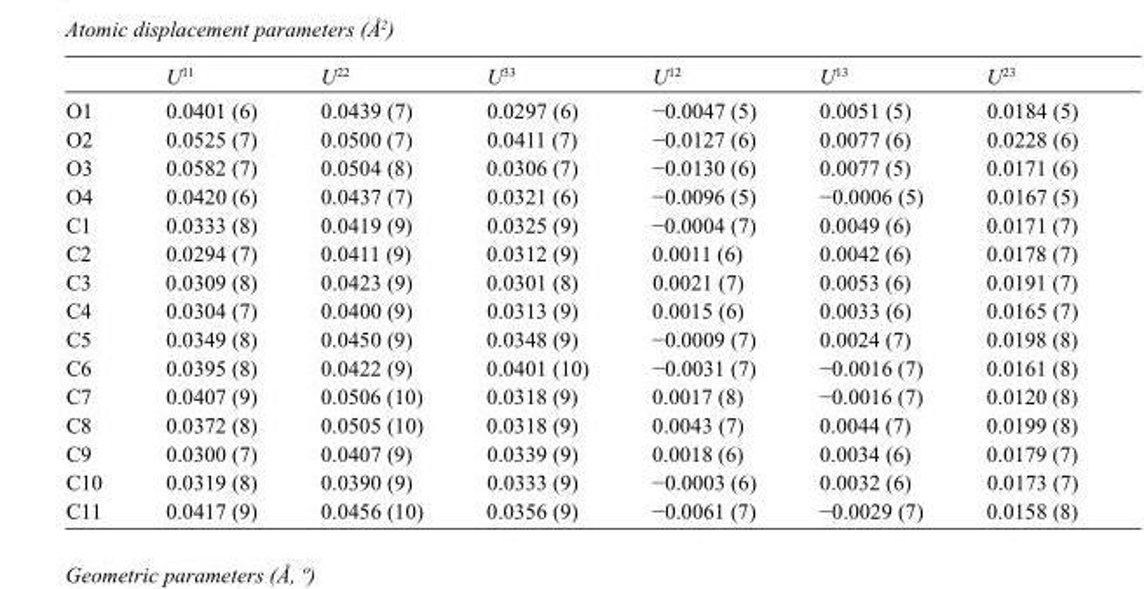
<table><thead><tr><td></td><td>U<sup>11</sup></td><td>U<sup>22</sup></td><td>U<sup>33</sup></td><td>U<sup>12</sup></td><td>U<sup>13</sup></td><td>U<sup>23</sup></td></tr></thead><tbody><tr><td>O1</td><td>0.0401 (6)</td><td>0.0439 (7)</td><td>0.0297 (6)</td><td>−0.0047 (5)</td><td>0.0051 (5)</td><td>0.0184 (5)</td></tr><tr><td>O2</td><td>0.0525 (7)</td><td>0.0500 (7)</td><td>0.0411 (7)</td><td>−0.0127 (6)</td><td>0.0077 (6)</td><td>0.0228 (6)</td></tr><tr><td>O3</td><td>0.0582 (7)</td><td>0.0504 (8)</td><td>0.0306 (7)</td><td>−0.0130 (6)</td><td>0.0077 (5)</td><td>0.0171 (6)</td></tr><tr><td>O4</td><td>0.0420 (6)</td><td>0.0437 (7)</td><td>0.0321 (6)</td><td>−0.0096 (5)</td><td>−0.0006 (5)</td><td>0.0167 (5)</td></tr><tr><td>C1</td><td>0.0333 (8)</td><td>0.0419 (9)</td><td>0.0325 (9)</td><td>−0.0004 (7)</td><td>0.0049 (6)</td><td>0.0171 (7)</td></tr><tr><td>C2</td><td>0.0294 (7)</td><td>0.0411 (9)</td><td>0.0312 (9)</td><td>0.0011 (6)</td><td>0.0042 (6)</td><td>0.0178 (7)</td></tr><tr><td>C3</td><td>0.0309 (8)</td><td>0.0423 (9)</td><td>0.0301 (8)</td><td>0.0021 (7)</td><td>0.0053 (6)</td><td>0.0191 (7)</td></tr><tr><td>C4</td><td>0.0304 (7)</td><td>0.0400 (9)</td><td>0.0313 (9)</td><td>0.0015 (6)</td><td>0.0033 (6)</td><td>0.0165 (7)</td></tr><tr><td>C5</td><td>0.0349 (8)</td><td>0.0450 (9)</td><td>0.0348 (9)</td><td>−0.0009 (7)</td><td>0.0024 (7)</td><td>0.0198 (8)</td></tr><tr><td>C6</td><td>0.0395 (8)</td><td>0.0422 (9)</td><td>0.0401 (10)</td><td>−0.0031 (7)</td><td>−0.0016 (7)</td><td>0.0161 (8)</td></tr><tr><td>C7</td><td>0.0407 (9)</td><td>0.0506 (10)</td><td>0.0318 (9)</td><td>0.0017 (8)</td><td>−0.0016 (7)</td><td>0.0120 (8)</td></tr><tr><td>C8</td><td>0.0372 (8)</td><td>0.0505 (10)</td><td>0.0318 (9)</td><td>0.0043 (7)</td><td>0.0044 (7)</td><td>0.0199 (8)</td></tr><tr><td>C9</td><td>0.0300 (7)</td><td>0.0407 (9)</td><td>0.0339 (9)</td><td>0.0018 (6)</td><td>0.0034 (6)</td><td>0.0179 (7)</td></tr><tr><td>C10</td><td>0.0319 (8)</td><td>0.0390 (9)</td><td>0.0333 (9)</td><td>−0.0003 (6)</td><td>0.0032 (6)</td><td>0.0173 (7)</td></tr><tr><td>C11</td><td>0.0417 (9)</td><td>0.0456 (10)</td><td>0.0356 (9)</td><td>−0.0061 (7)</td><td>−0.0029 (7)</td><td>0.0158 (8)</td></tr></tbody></table>